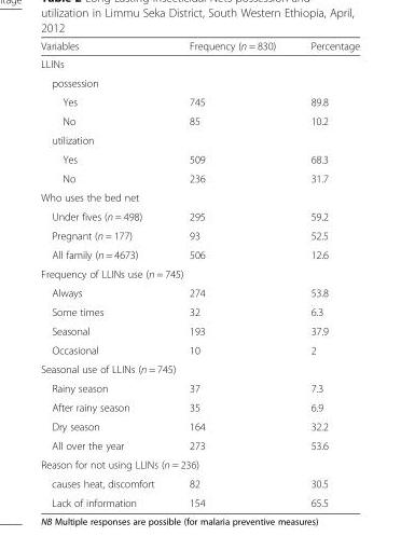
<table><thead><tr><td>Variables</td><td>Frequency (n = 830)</td><td>Percentage</td></tr></thead><tbody><tr><td colspan="3">LLINs</td></tr><tr><td colspan="3">possession</td></tr><tr><td>Yes</td><td>745</td><td>89.8</td></tr><tr><td>No</td><td>85</td><td>10.2</td></tr><tr><td colspan="3">utilization</td></tr><tr><td>Yes</td><td>509</td><td>68.3</td></tr><tr><td>No</td><td>236</td><td>31.7</td></tr><tr><td colspan="3">Who uses the bed net</td></tr><tr><td>Under fives (n = 498)</td><td>295</td><td>59.2</td></tr><tr><td>Pregnant (n = 177)</td><td>93</td><td>52.5</td></tr><tr><td>All family (n = 4673)</td><td>506</td><td>12.6</td></tr><tr><td colspan="3">Frequency of LLINs use (n = 745)</td></tr><tr><td>Always</td><td>274</td><td>53.8</td></tr><tr><td>Some times</td><td>32</td><td>6.3</td></tr><tr><td>Seasonal</td><td>193</td><td>37.9</td></tr><tr><td>Occasional</td><td>10</td><td>2</td></tr><tr><td colspan="3">Seasonal use of LLINs (n = 745)</td></tr><tr><td>Rainy season</td><td>37</td><td>7.3</td></tr><tr><td>After rainy season</td><td>35</td><td>6.9</td></tr><tr><td>Dry season</td><td>164</td><td>32.2</td></tr><tr><td>All over the year</td><td>273</td><td>53.6</td></tr><tr><td colspan="3">Reason for not using LLINs (n = 236)</td></tr><tr><td>causes heat, discomfort</td><td>82</td><td>30.5</td></tr><tr><td>Lack of information</td><td>154</td><td>65.5</td></tr></tbody></table>